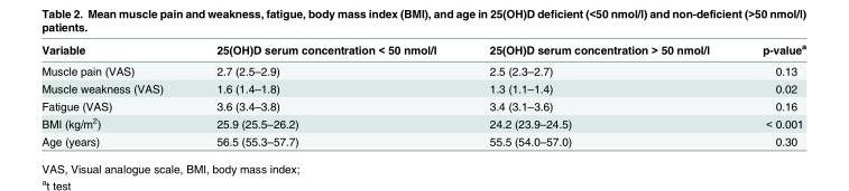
<table><thead><tr><td>Variable</td><td>25(OH)D serum concentration &lt; 50 nmol/l</td><td>25(OH)D serum concentration &gt; 50 nmol/l</td><td>p-value<sup>a</sup></td></tr></thead><tbody><tr><td>Muscle pain (VAS)</td><td>2.7 (2.5–2.9)</td><td>2.5 (2.3–2.7)</td><td>0.13</td></tr><tr><td>Muscle weakness (VAS)</td><td>1.6 (1.4–1.8)</td><td>1.3 (1.1–1.4)</td><td>0.02</td></tr><tr><td>Fatigue (VAS)</td><td>3.6 (3.4–3.8)</td><td>3.4 (3.1–3.6)</td><td>0.16</td></tr><tr><td>BMI (kg/m<sup>2</sup>)</td><td>25.9 (25.5–26.2)</td><td>24.2 (23.9–24.5)</td><td>&lt; 0.001</td></tr><tr><td>Age (years)</td><td>56.5 (55.3–57.7)</td><td>55.5 (54.0–57.0)</td><td>0.30</td></tr></tbody></table>